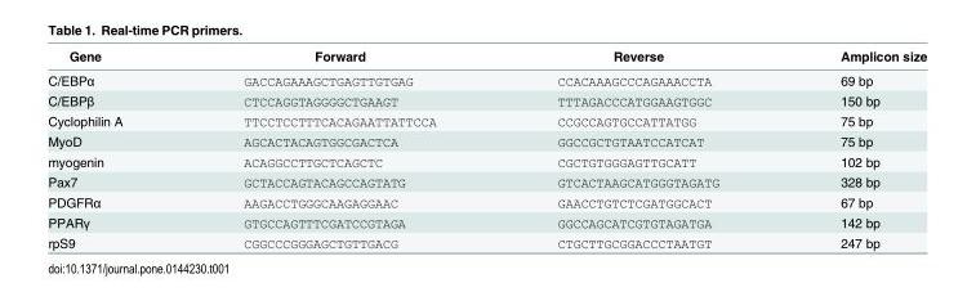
<table><thead><tr><td>Gene</td><td>Forward</td><td>Reverse</td><td>Amplicon size</td></tr></thead><tbody><tr><td>C/EBPα</td><td>GACCAGAAAGCTGAGTTGTGAG</td><td>CCACAAAGCCCAGAAACCTA</td><td>69 bp</td></tr><tr><td>C/EBPβ</td><td>CTCCAGGTAGGGGCTGAAGT</td><td>TTTAGACCCATGGAAGTGGC</td><td>150 bp</td></tr><tr><td>Cyclophilin A</td><td>TTCCTCCTTTCACAGAATTATTCCA</td><td>CCGCCAGTGCCATTATGG</td><td>75 bp</td></tr><tr><td>MyoD</td><td>AGCACTACAGTGGCGACTCA</td><td>GGCCGCTGTAATCCATCAT</td><td>75 bp</td></tr><tr><td>myogenin</td><td>ACAGGCCTTGCTCAGCTC</td><td>CGCTGTGGGAGTTGCATT</td><td>102 bp</td></tr><tr><td>Pax7</td><td>GCTACCAGTACAGCCAGTATG</td><td>GTCACTAAGCATGGGTAGATG</td><td>328 bp</td></tr><tr><td>PDGFRα</td><td>AAGACCTGGGCAAGAGGAAC</td><td>GAACCTGTCTCGATGGCACT</td><td>67 bp</td></tr><tr><td>PPARγ</td><td>GTGCCAGTTTCGATCCGTAGA</td><td>GGCCAGCATCGTGTAGATGA</td><td>142 bp</td></tr><tr><td>rpS9</td><td>CGGCCCGGGAGCTGTTGACG</td><td>CTGCTTGCGGACCCTAATGT</td><td>247 bp</td></tr></tbody></table>